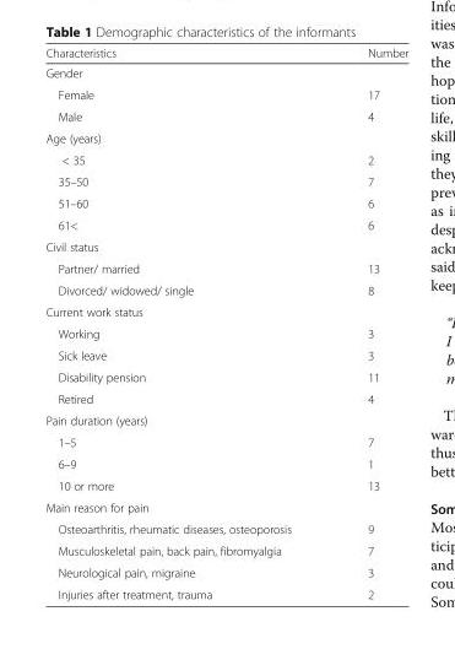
<table><thead><tr><td>Characteristics</td><td>Number</td></tr></thead><tbody><tr><td colspan="2">Gender</td></tr><tr><td>Female</td><td>17</td></tr><tr><td>Male</td><td>4</td></tr><tr><td colspan="2">Age (years)</td></tr><tr><td>&lt; 35</td><td>2</td></tr><tr><td>35–50</td><td>7</td></tr><tr><td>51–60</td><td>6</td></tr><tr><td>61&lt;</td><td>6</td></tr><tr><td colspan="2">Civil status</td></tr><tr><td>Partner/ married</td><td>13</td></tr><tr><td>Divorced/ widowed/ single</td><td>8</td></tr><tr><td colspan="2">Current work status</td></tr><tr><td>Working</td><td>3</td></tr><tr><td>Sick leave</td><td>3</td></tr><tr><td>Disability pension</td><td>11</td></tr><tr><td>Retired</td><td>4</td></tr><tr><td colspan="2">Pain duration (years)</td></tr><tr><td>1–5</td><td>7</td></tr><tr><td>6–9</td><td>1</td></tr><tr><td>10 or more</td><td>13</td></tr><tr><td colspan="2">Main reason for pain</td></tr><tr><td>Osteoarthritis, rheumatic diseases, osteoporosis</td><td>9</td></tr><tr><td>Musculoskeletal pain, back pain, fibromyalgia</td><td>7</td></tr><tr><td>Neurological pain, migraine</td><td>3</td></tr><tr><td>Injuries after treatment, trauma</td><td>2</td></tr></tbody></table>